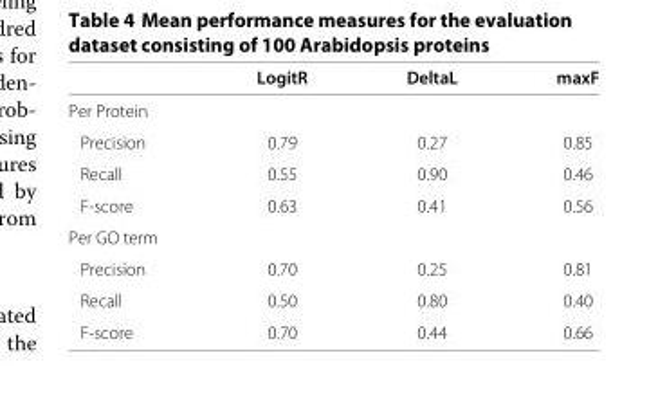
<table><thead><tr><td></td><td>LogitR</td><td>DeltaL</td><td>maxF</td></tr></thead><tbody><tr><td colspan="4">Per Protein</td></tr><tr><td>Precision</td><td>0.79</td><td>0.27</td><td>0.85</td></tr><tr><td>Recall</td><td>0.55</td><td>0.90</td><td>0.46</td></tr><tr><td>F-score</td><td>0.63</td><td>0.41</td><td>0.56</td></tr><tr><td colspan="4">Per GO term</td></tr><tr><td>Precision</td><td>0.70</td><td>0.25</td><td>0.81</td></tr><tr><td>Recall</td><td>0.50</td><td>0.80</td><td>0.40</td></tr><tr><td>F-score</td><td>0.70</td><td>0.44</td><td>0.66</td></tr></tbody></table>